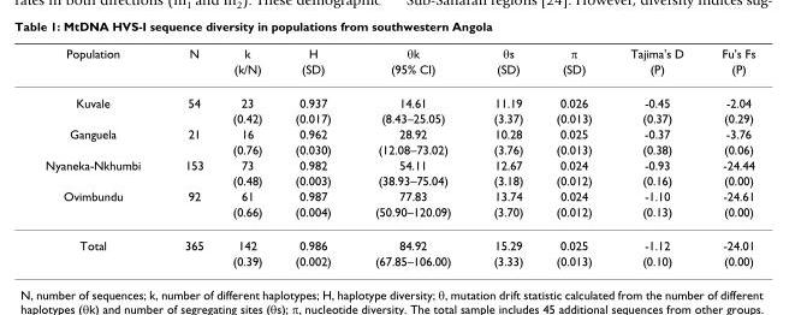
<table><thead><tr><td rowspan="2">Population</td><td rowspan="2">N</td><td rowspan="2">k (k/N)</td><td rowspan="2">H (SD)</td><td rowspan="2">θk (95% CI)</td><td rowspan="2">θs (SD)</td><td rowspan="2">π (SD)</td><td rowspan="2">Tajima&#x27;s D (P)</td><td rowspan="2">Fu&#x27;s Fs (P)</td></tr><tr></tr></thead><tbody><tr><td rowspan="2">Kuvale</td><td>54</td><td>23</td><td>0.937</td><td>14.61</td><td>11.19</td><td>0.026</td><td>-0.45</td><td>-2.04</td></tr><tr><td></td><td>(0.42)</td><td>(0.017)</td><td>(8.43–25.05)</td><td>(3.37)</td><td>(0.013)</td><td>(0.37)</td><td>(0.29)</td></tr><tr><td rowspan="2">Ganguela</td><td>21</td><td>16</td><td>0.962</td><td>28.92</td><td>10.28</td><td>0.025</td><td>-0.37</td><td>-3.76</td></tr><tr><td></td><td>(0.76)</td><td>(0.030)</td><td>(12.08–73.02)</td><td>(3.76)</td><td>(0.013)</td><td>(0.38)</td><td>(0.06)</td></tr><tr><td rowspan="2">Nyaneka-Nkhumbi</td><td>153</td><td>73</td><td>0.982</td><td>54.11</td><td>12.67</td><td>0.024</td><td>-0.93</td><td>-24.44</td></tr><tr><td></td><td>(0.48)</td><td>(0.003)</td><td>(38.93–75.04)</td><td>(3.18)</td><td>(0.012)</td><td>(0.16)</td><td>(0.00)</td></tr><tr><td rowspan="2">Ovimbundu</td><td>92</td><td>61</td><td>0.987</td><td>77.83</td><td>13.74</td><td>0.024</td><td>-1.10</td><td>-24.61</td></tr><tr><td></td><td>(0.66)</td><td>(0.004)</td><td>(50.90–120.09)</td><td>(3.70)</td><td>(0.012)</td><td>(0.13)</td><td>(0.00)</td></tr><tr><td rowspan="2">Total</td><td>365</td><td>142</td><td>0.986</td><td>84.92</td><td>15.29</td><td>0.025</td><td>-1.12</td><td>-24.01</td></tr><tr><td></td><td>(0.39)</td><td>(0.002)</td><td>(67.85–106.00)</td><td>(3.33)</td><td>(0.013)</td><td>(0.10)</td><td>(0.00)</td></tr></tbody></table>